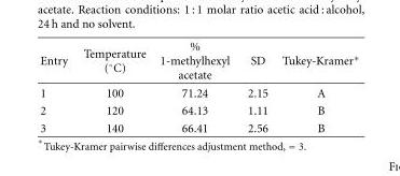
<table><thead><tr><td>Entry</td><td>Temperature (◦C)</td><td>% 1-methylhexyl acetate</td><td>SD</td><td>Tukey-Kramer∗</td></tr></thead><tbody><tr><td>1</td><td>100</td><td>71.24</td><td>2.15</td><td>A</td></tr><tr><td>2</td><td>120</td><td>64.13</td><td>1.11</td><td>B</td></tr><tr><td>3</td><td>140</td><td>66.41</td><td>2.56</td><td>B</td></tr></tbody></table>